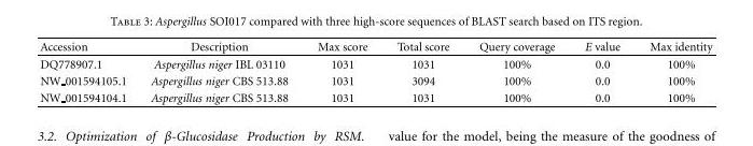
<table><thead><tr><td>Accession</td><td>Description</td><td>Max score</td><td>Total score</td><td>Query coverage</td><td>E value</td><td>Max identity</td></tr></thead><tbody><tr><td>DQ778907.1</td><td>Aspergillus niger IBL 03110</td><td>1031</td><td>1031</td><td>100%</td><td>0.0</td><td>100%</td></tr><tr><td>NW 001594105.1</td><td>Aspergillus niger CBS 513.88</td><td>1031</td><td>3094</td><td>100%</td><td>0.0</td><td>100%</td></tr><tr><td>NW 001594104.1</td><td>Aspergillus niger CBS 513.88</td><td>1031</td><td>1031</td><td>100%</td><td>0.0</td><td>100%</td></tr></tbody></table>